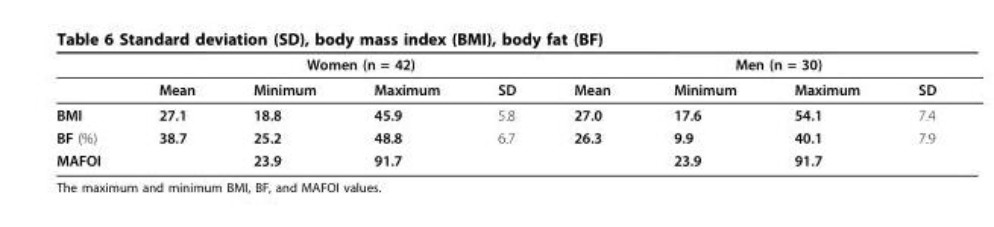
<table><thead><tr><td rowspan="2"></td><td colspan="4">Women (n = 42)</td><td colspan="4">Men (n = 30)</td></tr><tr><td>Mean</td><td>Minimum</td><td>Maximum</td><td>SD</td><td>Mean</td><td>Minimum</td><td>Maximum</td><td>SD</td></tr></thead><tbody><tr><td>BMI</td><td>27.1</td><td>18.8</td><td>45.9</td><td>5.8</td><td>27.0</td><td>17.6</td><td>54.1</td><td>7.4</td></tr><tr><td>BF (%)</td><td>38.7</td><td>25.2</td><td>48.8</td><td>6.7</td><td>26.3</td><td>9.9</td><td>40.1</td><td>7.9</td></tr><tr><td>MAFOI</td><td></td><td>23.9</td><td>91.7</td><td></td><td></td><td>23.9</td><td>91.7</td><td></td></tr></tbody></table>